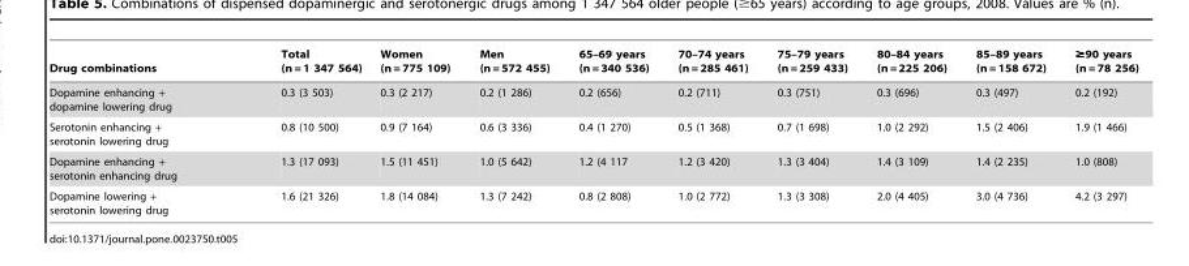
<table><thead><tr><td>Drug combinations</td><td>Total (n = 1 347 564)</td><td>Women (n = 775 109)</td><td>Men (n = 572 455)</td><td>65–69 years (n = 340 536)</td><td>70–74 years (n = 285 461)</td><td>75–79 years (n = 259 433)</td><td>80–84 years (n = 225 206)</td><td>85–89 years (n = 158 672)</td><td>≥90 years (n = 78 256)</td></tr></thead><tbody><tr><td>Dopamine enhancing + dopamine lowering drug</td><td>0.3 (3 503)</td><td>0.3 (2 217)</td><td>0.2 (1 286)</td><td>0.2 (656)</td><td>0.2 (711)</td><td>0.3 (751)</td><td>0.3 (696)</td><td>0.3 (497)</td><td>0.2 (192)</td></tr><tr><td>Serotonin enhancing + serotonin lowering drug</td><td>0.8 (10 500)</td><td>0.9 (7 164)</td><td>0.6 (3 336)</td><td>0.4 (1 270)</td><td>0.5 (1 368)</td><td>0.7 (1 698)</td><td>1.0 (2 292)</td><td>1.5 (2 406)</td><td>1.9 (1 466)</td></tr><tr><td>Dopamine enhancing + serotonin enhancing drug</td><td>1.3 (17 093)</td><td>1.5 (11 451)</td><td>1.0 (5 642)</td><td>1.2 (4 117</td><td>1.2 (3 420)</td><td>1.3 (3 404)</td><td>1.4 (3 109)</td><td>1.4 (2 235)</td><td>1.0 (808)</td></tr><tr><td>Dopamine lowering + serotonin lowering drug</td><td>1.6 (21 326)</td><td>1.8 (14 084)</td><td>1.3 (7 242)</td><td>0.8 (2 808)</td><td>1.0 (2 772)</td><td>1.3 (3 308)</td><td>2.0 (4 405)</td><td>3.0 (4 736)</td><td>4.2 (3 297)</td></tr></tbody></table>